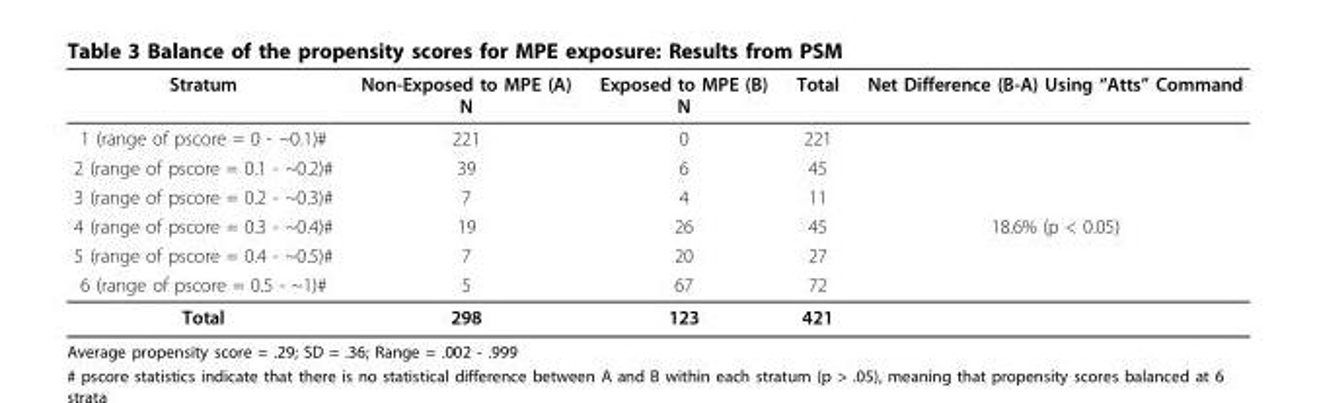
<table><thead><tr><td>Stratum</td><td>Non-Exposed to MPE (A) N</td><td>Exposed to MPE (B) N</td><td>Total</td><td>Net Difference (B-A) Using “Atts” Command</td></tr></thead><tbody><tr><td>1 (range of pscore = 0 - ~0.1)#</td><td>221</td><td>0</td><td>221</td><td></td></tr><tr><td>2 (range of pscore = 0.1 - ~0.2)#</td><td>39</td><td>6</td><td>45</td><td></td></tr><tr><td>3 (range of pscore = 0.2 - ~0.3)#</td><td>7</td><td>4</td><td>11</td><td></td></tr><tr><td>4 (range of pscore = 0.3 - ~0.4)#</td><td>19</td><td>26</td><td>45</td><td>18.6% (p &lt; 0.05)</td></tr><tr><td>5 (range of pscore = 0.4 - ~0.5)#</td><td>7</td><td>20</td><td>27</td><td></td></tr><tr><td>6 (range of pscore = 0.5 - ~1)#</td><td>5</td><td>67</td><td>72</td><td></td></tr><tr><td>Total</td><td>298</td><td>123</td><td>421</td><td></td></tr></tbody></table>